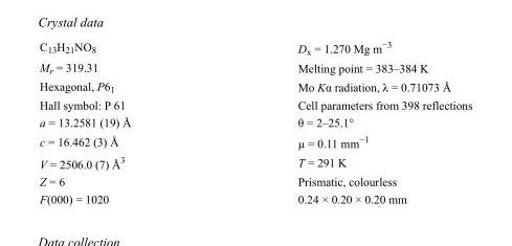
<table><tbody><tr><td>C<sub>13</sub>H<sub>21</sub>NO<sub>8</sub></td><td>D<sub>x</sub> = 1.270 Mg m<sup>−3</sup></td></tr><tr><td>M<sub>r</sub> = 319.31</td><td>Melting point = 383–384 K</td></tr><tr><td>Hexagonal, P6<sub>1</sub></td><td>Mo Kα radiation, λ = 0.71073 Å</td></tr><tr><td>Hall symbol: P 61</td><td>Cell parameters from 398 reflections</td></tr><tr><td>a = 13.2581 (19) Å</td><td>θ = 2–25.1°</td></tr><tr><td>c = 16.462 (3) Å</td><td>µ = 0.11 mm<sup>−1</sup></td></tr><tr><td>V = 2506.0 (7) Å<sup>3</sup></td><td>T = 291 K</td></tr><tr><td>Z = 6</td><td>Prismatic, colourless</td></tr><tr><td>F(000) = 1020</td><td>0.24 × 0.20 × 0.20 mm</td></tr></tbody></table>